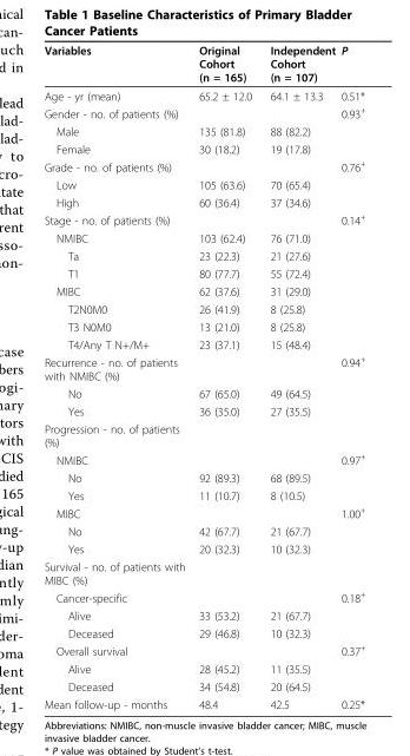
<table><thead><tr><td>Variables</td><td>Original Cohort (n = 165)</td><td>Independent Cohort (n = 107)</td><td>P</td></tr></thead><tbody><tr><td>Age - yr (mean)</td><td>65.2 ± 12.0</td><td>64.1 ± 13.3</td><td>0.51*</td></tr><tr><td>Gender - no. of patients (%)</td><td></td><td></td><td>0.93<sup>+</sup></td></tr><tr><td>Male</td><td>135 (81.8)</td><td>88 (82.2)</td><td></td></tr><tr><td>Female</td><td>30 (18.2)</td><td>19 (17.8)</td><td></td></tr><tr><td>Grade - no. of patients (%)</td><td></td><td></td><td>0.76<sup>+</sup></td></tr><tr><td>Low</td><td>105 (63.6)</td><td>70 (65.4)</td><td></td></tr><tr><td>High</td><td>60 (36.4)</td><td>37 (34.6)</td><td></td></tr><tr><td>Stage - no. of patients (%)</td><td></td><td></td><td>0.14<sup>+</sup></td></tr><tr><td>NMIBC</td><td>103 (62.4)</td><td>76 (71.0)</td><td></td></tr><tr><td>Ta</td><td>23 (22.3)</td><td>21 (27.6)</td><td></td></tr><tr><td>T1</td><td>80 (77.7)</td><td>55 (72.4)</td><td></td></tr><tr><td>MIBC</td><td>62 (37.6)</td><td>31 (29.0)</td><td></td></tr><tr><td>T2N0M0</td><td>26 (41.9)</td><td>8 (25.8)</td><td></td></tr><tr><td>T3 N0M0</td><td>13 (21.0)</td><td>8 (25.8)</td><td></td></tr><tr><td>T4/Any T N+/M+</td><td>23 (37.1)</td><td>15 (48.4)</td><td></td></tr><tr><td>Recurrence - no. of patients with NMIBC (%)</td><td></td><td></td><td>0.94<sup>+</sup></td></tr><tr><td>No</td><td>67 (65.0)</td><td>49 (64.5)</td><td></td></tr><tr><td>Yes</td><td>36 (35.0)</td><td>27 (35.5)</td><td></td></tr><tr><td colspan="4">Progression - no. of patients (%)</td></tr><tr><td>NMIBC</td><td></td><td></td><td>0.97<sup>+</sup></td></tr><tr><td>No</td><td>92 (89.3)</td><td>68 (89.5)</td><td></td></tr><tr><td>Yes</td><td>11 (10.7)</td><td>8 (10.5)</td><td></td></tr><tr><td>MIBC</td><td></td><td></td><td>1.00<sup>+</sup></td></tr><tr><td>No</td><td>42 (67.7)</td><td>21 (67.7)</td><td></td></tr><tr><td>Yes</td><td>20 (32.3)</td><td>10 (32.3)</td><td></td></tr><tr><td colspan="4">Survival - no. of patients with MIBC (%)</td></tr><tr><td>Cancer-specific</td><td></td><td></td><td>0.18<sup>+</sup></td></tr><tr><td>Alive</td><td>33 (53.2)</td><td>21 (67.7)</td><td></td></tr><tr><td>Deceased</td><td>29 (46.8)</td><td>10 (32.3)</td><td></td></tr><tr><td>Overall survival</td><td></td><td></td><td>0.37<sup>+</sup></td></tr><tr><td>Alive</td><td>28 (45.2)</td><td>11 (35.5)</td><td></td></tr><tr><td>Deceased</td><td>34 (54.8)</td><td>20 (64.5)</td><td></td></tr><tr><td>Mean follow-up - months</td><td>48.4</td><td>42.5</td><td>0.25*</td></tr></tbody></table>